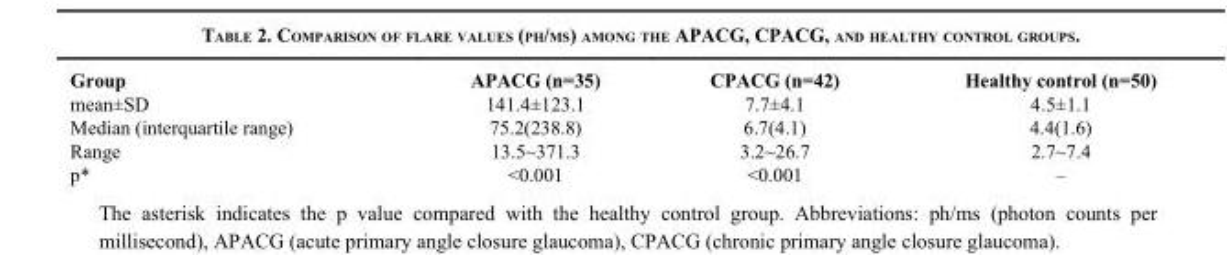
<table><thead><tr><td>Group</td><td>APACG (n=35)</td><td>CPACG (n=42)</td><td>Healthy control (n=50)</td></tr></thead><tbody><tr><td>mean±SD</td><td>141.4±123.1</td><td>7.7±4.1</td><td>4.5±1.1</td></tr><tr><td>Median (interquartile range)</td><td>75.2(238.8)</td><td>6.7(4.1)</td><td>4.4(1.6)</td></tr><tr><td>Range</td><td>13.5~371.3</td><td>3.2~26.7</td><td>2.7~7.4</td></tr><tr><td>p*</td><td>&lt;0.001</td><td>&lt;0.001</td><td>–</td></tr></tbody></table>